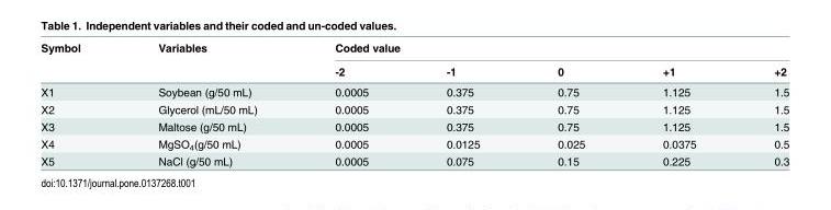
<table><thead><tr><td rowspan="2">Symbol</td><td rowspan="2">Variables</td><td colspan="5">Coded value</td></tr><tr><td>-2</td><td>-1</td><td>0</td><td>+1</td><td>+2</td></tr></thead><tbody><tr><td>X1</td><td>Soybean (g/50 mL)</td><td>0.0005</td><td>0.375</td><td>0.75</td><td>1.125</td><td>1.5</td></tr><tr><td>X2</td><td>Glycerol (mL/50 mL)</td><td>0.0005</td><td>0.375</td><td>0.75</td><td>1.125</td><td>1.5</td></tr><tr><td>X3</td><td>Maltose (g/50 mL)</td><td>0.0005</td><td>0.375</td><td>0.75</td><td>1.125</td><td>1.5</td></tr><tr><td>X4</td><td>MgSO<sub>4</sub>(g/50 mL)</td><td>0.0005</td><td>0.0125</td><td>0.025</td><td>0.0375</td><td>0.5</td></tr><tr><td>X5</td><td>NaCl (g/50 mL)</td><td>0.0005</td><td>0.075</td><td>0.15</td><td>0.225</td><td>0.3</td></tr></tbody></table>